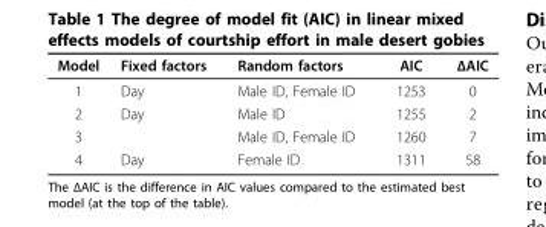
<table><thead><tr><td>Model</td><td>Fixed factors</td><td>Random factors</td><td>AIC</td><td>ΔAIC</td></tr></thead><tbody><tr><td>1</td><td>Day</td><td>Male ID, Female ID</td><td>1253</td><td>0</td></tr><tr><td>2</td><td>Day</td><td>Male ID</td><td>1255</td><td>2</td></tr><tr><td>3</td><td></td><td>Male ID, Female ID</td><td>1260</td><td>7</td></tr><tr><td>4</td><td>Day</td><td>Female ID</td><td>1311</td><td>58</td></tr></tbody></table>